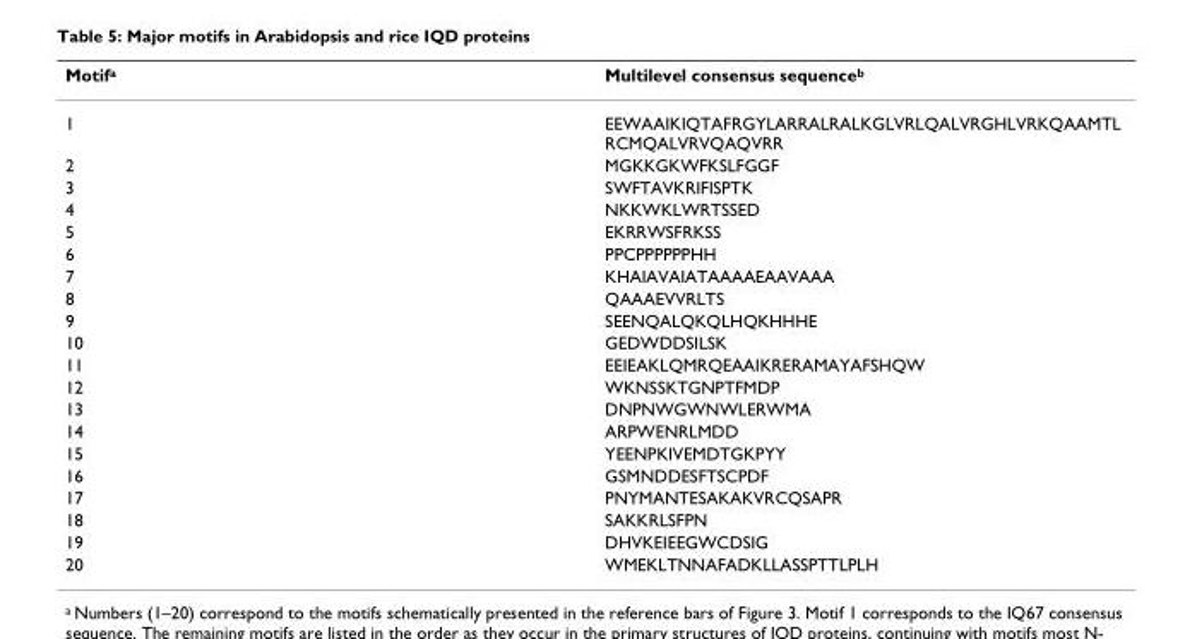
<table><thead><tr><td>Motif<sup>a</sup></td><td>Multilevel consensus sequence<sup>b</sup></td></tr></thead><tbody><tr><td>1</td><td>EEWAAIKIQTAFRGYLARRALRALKGLVRLQALVRGHLVRKQAAMTL RCMQALVRVQAQVRR</td></tr><tr><td>2</td><td>MGKKGKWFKSLFGGF</td></tr><tr><td>3</td><td>SWFTAVKRIFISPTK</td></tr><tr><td>4</td><td>NKKWKLWRTSSED</td></tr><tr><td>5</td><td>EKRRWSFRKSS</td></tr><tr><td>6</td><td>PPCPPPPPPHH</td></tr><tr><td>7</td><td>KHAIAVAIATAAAAEAAVAAA</td></tr><tr><td>8</td><td>QAAAEVVRLTS</td></tr><tr><td>9</td><td>SEENQALQKQLHQKHHHE</td></tr><tr><td>10</td><td>GEDWDDSILSK</td></tr><tr><td>11</td><td>EEIEAKLQMRQEAAIKRERAMAYAFSHQW</td></tr><tr><td>12</td><td>WKNSSKTGNPTFMDP</td></tr><tr><td>13</td><td>DNPNWGWNWLERWMA</td></tr><tr><td>14</td><td>ARPWENRLMDD</td></tr><tr><td>15</td><td>YEENPKIVEMDTGKPYY</td></tr><tr><td>16</td><td>GSMNDDESFTSCPDF</td></tr><tr><td>17</td><td>PNYMANTESAKAKVRCQSAPR</td></tr><tr><td>18</td><td>SAKKRLSFPN</td></tr><tr><td>19</td><td>DHVKEIEEGWCDSIG</td></tr><tr><td>20</td><td>WMEKLTNNAFADKLLASSPTTLPLH</td></tr></tbody></table>